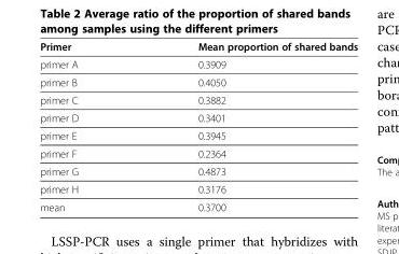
<table><thead><tr><td>Primer</td><td>Mean proportion of shared bands</td></tr></thead><tbody><tr><td>primer A</td><td>0.3909</td></tr><tr><td>primer B</td><td>0.4050</td></tr><tr><td>primer C</td><td>0.3882</td></tr><tr><td>primer D</td><td>0.3401</td></tr><tr><td>primer E</td><td>0.3945</td></tr><tr><td>primer F</td><td>0.2364</td></tr><tr><td>primer G</td><td>0.4873</td></tr><tr><td>primer H</td><td>0.3176</td></tr><tr><td>mean</td><td>0.3700</td></tr></tbody></table>